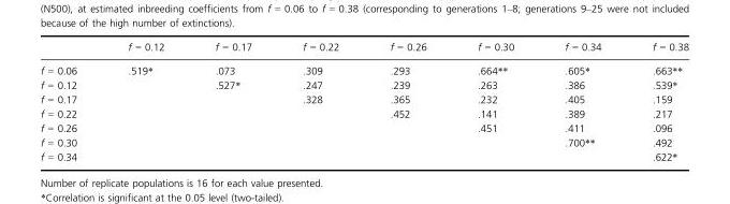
<table><thead><tr><td></td><td>f = 0.12</td><td>f = 0.17</td><td>f = 0.22</td><td>f = 0.26</td><td>f = 0.30</td><td>f = 0.34</td><td>f = 0.38</td></tr></thead><tbody><tr><td>f = 0.06</td><td>.519*</td><td>.073</td><td>.309</td><td>.293</td><td>.664**</td><td>.605*</td><td>.663**</td></tr><tr><td>f = 0.12</td><td></td><td>.527*</td><td>.247</td><td>.239</td><td>.263</td><td>.386</td><td>.539*</td></tr><tr><td>f = 0.17</td><td></td><td></td><td>.328</td><td>.365</td><td>.232</td><td>.405</td><td>.159</td></tr><tr><td>f = 0.22</td><td></td><td></td><td></td><td>.452</td><td>.141</td><td>.389</td><td>.217</td></tr><tr><td>f = 0.26</td><td></td><td></td><td></td><td></td><td>.451</td><td>.411</td><td>.096</td></tr><tr><td>f = 0.30</td><td></td><td></td><td></td><td></td><td></td><td>.700**</td><td>.492</td></tr><tr><td>f = 0.34</td><td></td><td></td><td></td><td></td><td></td><td></td><td>.622*</td></tr></tbody></table>